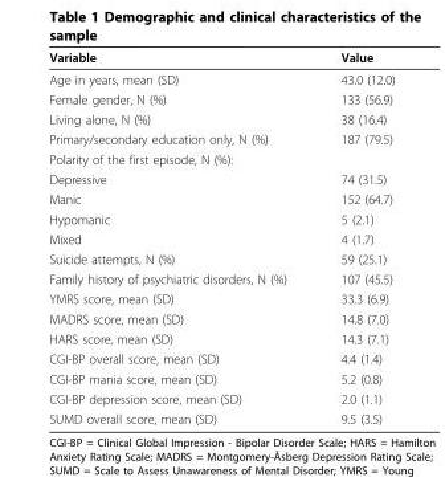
<table><thead><tr><td>Variable</td><td>Value</td></tr></thead><tbody><tr><td>Age in years, mean (SD)</td><td>43.0 (12.0)</td></tr><tr><td>Female gender, N (%)</td><td>133 (56.9)</td></tr><tr><td>Living alone, N (%)</td><td>38 (16.4)</td></tr><tr><td>Primary/secondary education only, N (%)</td><td>187 (79.5)</td></tr><tr><td colspan="2">Polarity of the first episode, N (%):</td></tr><tr><td>Depressive</td><td>74 (31.5)</td></tr><tr><td>Manic</td><td>152 (64.7)</td></tr><tr><td>Hypomanic</td><td>5 (2.1)</td></tr><tr><td>Mixed</td><td>4 (1.7)</td></tr><tr><td>Suicide attempts, N (%)</td><td>59 (25.1)</td></tr><tr><td>Family history of psychiatric disorders, N (%)</td><td>107 (45.5)</td></tr><tr><td>YMRS score, mean (SD)</td><td>33.3 (6.9)</td></tr><tr><td>MADRS score, mean (SD)</td><td>14.8 (7.0)</td></tr><tr><td>HARS score, mean (SD)</td><td>14.3 (7.1)</td></tr><tr><td>CGI-BP overall score, mean (SD)</td><td>4.4 (1.4)</td></tr><tr><td>CGI-BP mania score, mean (SD)</td><td>5.2 (0.8)</td></tr><tr><td>CGI-BP depression score, mean (SD)</td><td>2.0 (1.1)</td></tr><tr><td>SUMD overall score, mean (SD)</td><td>9.5 (3.5)</td></tr></tbody></table>